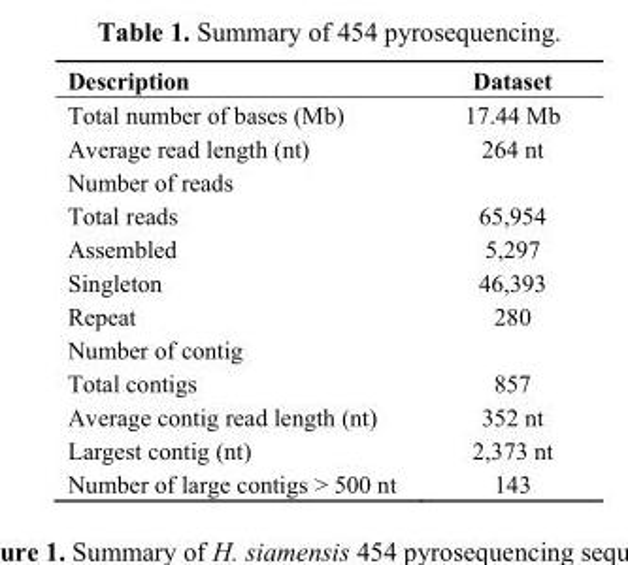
<table><thead><tr><td>Description</td><td>Dataset</td></tr></thead><tbody><tr><td>Total number of bases (Mb)</td><td>17.44 Mb</td></tr><tr><td>Average read length (nt)</td><td>264 nt</td></tr><tr><td colspan="2">Number of reads</td></tr><tr><td>Total reads</td><td>65,954</td></tr><tr><td>Assembled</td><td>5,297</td></tr><tr><td>Singleton</td><td>46,393</td></tr><tr><td>Repeat</td><td>280</td></tr><tr><td colspan="2">Number of contig</td></tr><tr><td>Total contigs</td><td>857</td></tr><tr><td>Average contig read length (nt)</td><td>352 nt</td></tr><tr><td>Largest contig (nt)</td><td>2,373 nt</td></tr><tr><td>Number of large contigs &gt; 500 nt</td><td>143</td></tr></tbody></table>